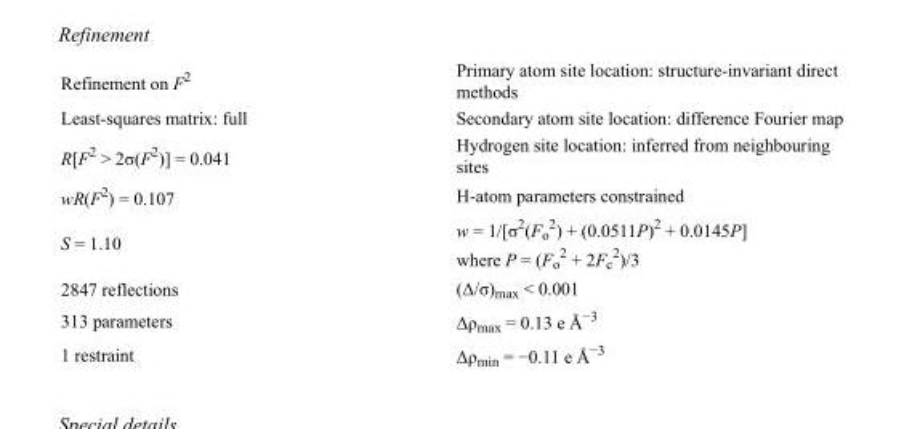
<table><tbody><tr><td>Refinement on F<sup>2</sup></td><td>Primary atom site location: structure-invariant direct methods</td></tr><tr><td>Least-squares matrix: full</td><td>Secondary atom site location: difference Fourier map</td></tr><tr><td>R[F<sup>2</sup> &gt; 2σ(F<sup>2</sup>)] = 0.041</td><td>Hydrogen site location: inferred from neighbouring sites</td></tr><tr><td>wR(F<sup>2</sup>) = 0.107</td><td>H-atom parameters constrained</td></tr><tr><td>S = 1.10</td><td>w = 1/[σ<sup>2</sup>(F<sub>o</sub> <sup>2</sup>) + (0.0511P)<sup>2</sup> + 0.0145P] where P = (F<sub>o</sub> <sup>2</sup> + 2F<sub>c</sub> <sup>2</sup>)/3</td></tr><tr><td>2847 reflections</td><td>(Δ/σ)<sub>max</sub> &lt; 0.001</td></tr><tr><td>313 parameters</td><td>Δρ<sub>max</sub> = 0.13 e Å<sup>−3</sup></td></tr><tr><td>1 restraint</td><td>Δρ<sub>min</sub> = −0.11 e Å<sup>−3</sup></td></tr></tbody></table>